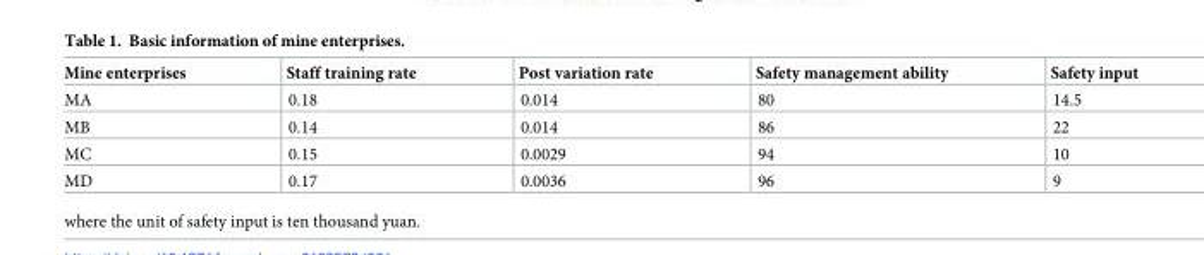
<table><thead><tr><td>Mine enterprises</td><td>Staff training rate</td><td>Post variation rate</td><td>Safety management ability</td><td>Safety input</td></tr></thead><tbody><tr><td>MA</td><td>0.18</td><td>0.014</td><td>80</td><td>14.5</td></tr><tr><td>MB</td><td>0.14</td><td>0.014</td><td>86</td><td>22</td></tr><tr><td>MC</td><td>0.15</td><td>0.0029</td><td>94</td><td>10</td></tr><tr><td>MD</td><td>0.17</td><td>0.0036</td><td>96</td><td>9</td></tr></tbody></table>